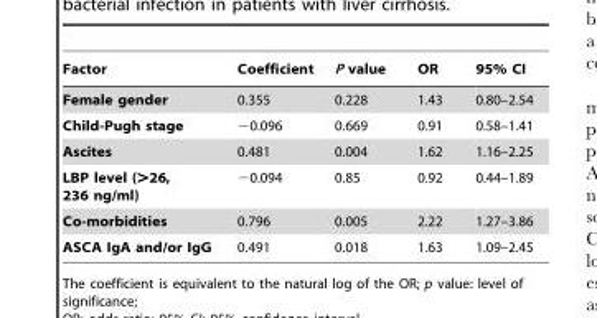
<table><thead><tr><td>Factor</td><td>Coefficient</td><td>P value</td><td>OR</td><td>95% CI</td></tr></thead><tbody><tr><td>Female gender</td><td>0.355</td><td>0.228</td><td>1.43</td><td>0.80–2.54</td></tr><tr><td>Child-Pugh stage</td><td>−0.096</td><td>0.669</td><td>0.91</td><td>0.58–1.41</td></tr><tr><td>Ascites</td><td>0.481</td><td>0.004</td><td>1.62</td><td>1.16–2.25</td></tr><tr><td>LBP level (&gt;26, 236 ng/ml)</td><td>−0.094</td><td>0.85</td><td>0.92</td><td>0.44–1.89</td></tr><tr><td>Co-morbidities</td><td>0.796</td><td>0.005</td><td>2.22</td><td>1.27–3.86</td></tr><tr><td>ASCA IgA and/or IgG</td><td>0.491</td><td>0.018</td><td>1.63</td><td>1.09–2.45</td></tr></tbody></table>